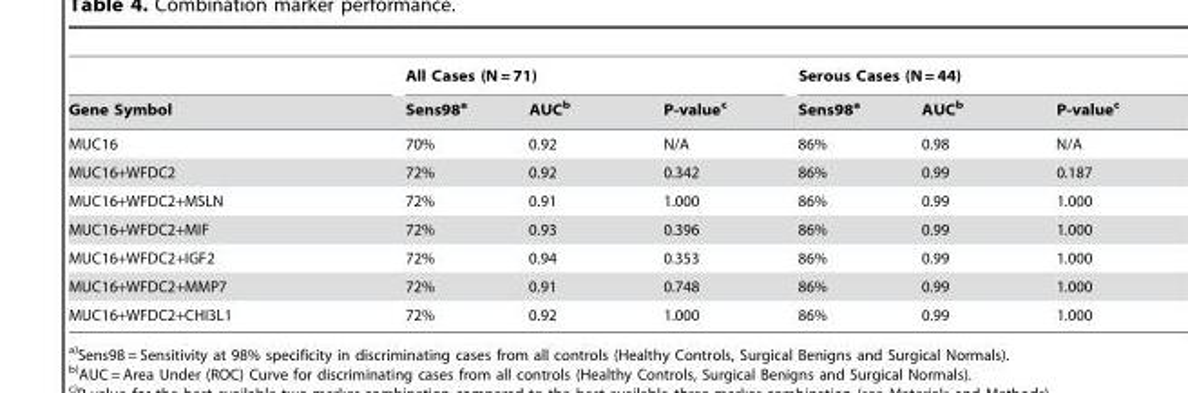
<table><thead><tr><td rowspan="2">Gene Symbol</td><td colspan="3">All Cases (N = 71)</td><td colspan="3">Serous Cases (N = 44)</td></tr><tr><td>Sens98<sup>a</sup></td><td>AUC<sup>b</sup></td><td>P-value<sup>c</sup></td><td>Sens98<sup>a</sup></td><td>AUC<sup>b</sup></td><td>P-value<sup>c</sup></td></tr></thead><tbody><tr><td>MUC16</td><td>70%</td><td>0.92</td><td>N/A</td><td>86%</td><td>0.98</td><td>N/A</td></tr><tr><td>MUC16+WFDC2</td><td>72%</td><td>0.92</td><td>0.342</td><td>86%</td><td>0.99</td><td>0.187</td></tr><tr><td>MUC16+WFDC2+MSLN</td><td>72%</td><td>0.91</td><td>1.000</td><td>86%</td><td>0.99</td><td>1.000</td></tr><tr><td>MUC16+WFDC2+MIF</td><td>72%</td><td>0.93</td><td>0.396</td><td>86%</td><td>0.99</td><td>1.000</td></tr><tr><td>MUC16+WFDC2+IGF2</td><td>72%</td><td>0.94</td><td>0.353</td><td>86%</td><td>0.99</td><td>1.000</td></tr><tr><td>MUC16+WFDC2+MMP7</td><td>72%</td><td>0.91</td><td>0.748</td><td>86%</td><td>0.99</td><td>1.000</td></tr><tr><td>MUC16+WFDC2+CHI3L1</td><td>72%</td><td>0.92</td><td>1.000</td><td>86%</td><td>0.99</td><td>1.000</td></tr></tbody></table>